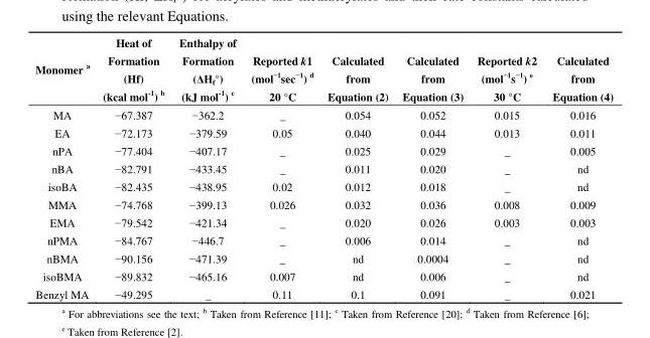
<table><thead><tr><td>Monomer <sup>a</sup></td><td>Heat of Formation (Hf) (kcal mol<sup>-1</sup>) <sup>b</sup></td><td>Enthalpy of Formation (ΔH<sub>f</sub>°) (kJ mol<sup>-1</sup>) <sup>c</sup></td><td>Reported k1 (mol<sup>−1</sup>sec<sup>−1</sup>) <sup>d</sup> 20 °C</td><td>Calculated from Equation (2)</td><td>Calculated from Equation (3)</td><td>Reported k2 (mol<sup>−1</sup>s<sup>−1</sup>) <sup>e</sup> 30 °C</td><td>Calculated from Equation (4)</td></tr></thead><tbody><tr><td>MA</td><td>−67.387</td><td>−362.2</td><td>–</td><td>0.054</td><td>0.052</td><td>0.015</td><td>0.016</td></tr><tr><td>EA</td><td>−72.173</td><td>−379.59</td><td>0.05</td><td>0.040</td><td>0.044</td><td>0.013</td><td>0.011</td></tr><tr><td>nPA</td><td>−77.404</td><td>−407.17</td><td>–</td><td>0.025</td><td>0.029</td><td>–</td><td>0.005</td></tr><tr><td>nBA</td><td>−82.791</td><td>−433.45</td><td>–</td><td>0.011</td><td>0.020</td><td>–</td><td>nd</td></tr><tr><td>isoBA</td><td>−82.435</td><td>−438.95</td><td>0.02</td><td>0.012</td><td>0.018</td><td>–</td><td>nd</td></tr><tr><td>MMA</td><td>−74.768</td><td>−399.13</td><td>0.026</td><td>0.032</td><td>0.036</td><td>0.008</td><td>0.009</td></tr><tr><td>EMA</td><td>−79.542</td><td>−421.34</td><td>–</td><td>0.020</td><td>0.026</td><td>0.003</td><td>0.003</td></tr><tr><td>nPMA</td><td>−84.767</td><td>−446.7</td><td>–</td><td>0.006</td><td>0.014</td><td>–</td><td>nd</td></tr><tr><td>nBMA</td><td>−90.156</td><td>−471.39</td><td>–</td><td>nd</td><td>0.0004</td><td>–</td><td>nd</td></tr><tr><td>isoBMA</td><td>−89.832</td><td>−465.16</td><td>0.007</td><td>nd</td><td>0.006</td><td>–</td><td>nd</td></tr><tr><td>Benzyl MA</td><td>−49.295</td><td>–</td><td>0.11</td><td>0.1</td><td>0.091</td><td>–</td><td>0.021</td></tr></tbody></table>